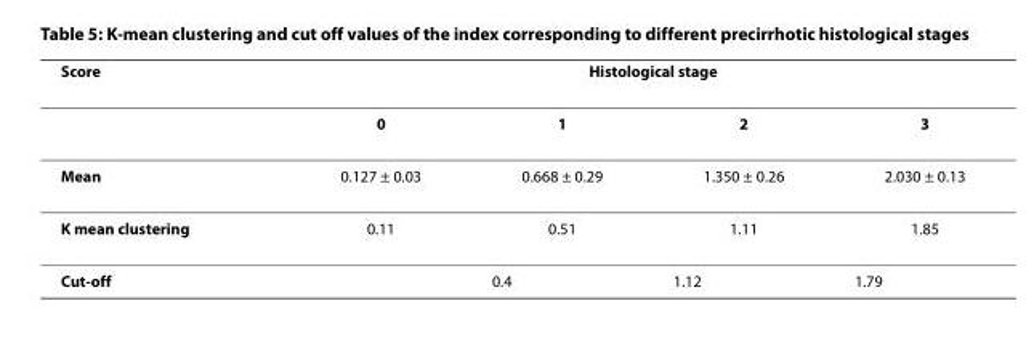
<table><thead><tr><td rowspan="2">Score</td><td colspan="4">Histological stage</td></tr><tr><td>0</td><td>1</td><td>2</td><td>3</td></tr></thead><tbody><tr><td>Mean</td><td>0.127 ± 0.03</td><td>0.668 ± 0.29</td><td>1.350 ± 0.26</td><td>2.030 ± 0.13</td></tr><tr><td>K mean clustering</td><td>0.11</td><td>0.51</td><td>1.11</td><td>1.85</td></tr><tr><td>Cut-off</td><td></td><td>0.4</td><td>1.12</td><td>1.79</td></tr></tbody></table>